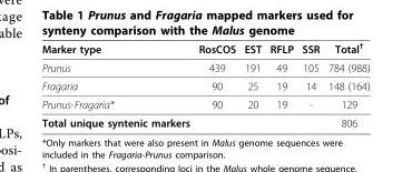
<table><thead><tr><td>Marker type</td><td>RosCOS</td><td>EST</td><td>RFLP</td><td>SSR</td><td>Total<sup>†</sup></td></tr></thead><tbody><tr><td>Prunus</td><td>439</td><td>191</td><td>49</td><td>105</td><td>784 (988)</td></tr><tr><td>Fragaria</td><td>90</td><td>25</td><td>19</td><td>14</td><td>148 (164)</td></tr><tr><td>Prunus-Fragaria*</td><td>90</td><td>20</td><td>19</td><td>-</td><td>129</td></tr><tr><td>Total unique syntenic markers</td><td></td><td></td><td></td><td></td><td>806</td></tr></tbody></table>